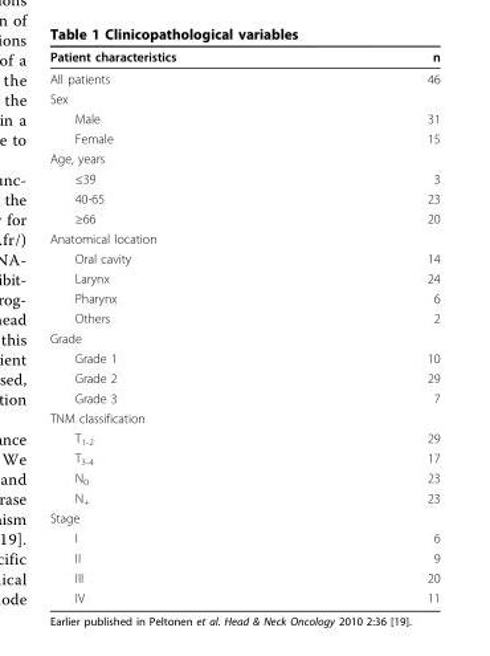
<table><thead><tr><td>Patient characteristics</td><td>n</td></tr></thead><tbody><tr><td>All patients</td><td>46</td></tr><tr><td colspan="2">Sex</td></tr><tr><td>Male</td><td>31</td></tr><tr><td>Female</td><td>15</td></tr><tr><td colspan="2">Age, years</td></tr><tr><td>≤39</td><td>3</td></tr><tr><td>40-65</td><td>23</td></tr><tr><td>≥66</td><td>20</td></tr><tr><td colspan="2">Anatomical location</td></tr><tr><td>Oral cavity</td><td>14</td></tr><tr><td>Larynx</td><td>24</td></tr><tr><td>Pharynx</td><td>6</td></tr><tr><td>Others</td><td>2</td></tr><tr><td colspan="2">Grade</td></tr><tr><td>Grade 1</td><td>10</td></tr><tr><td>Grade 2</td><td>29</td></tr><tr><td>Grade 3</td><td>7</td></tr><tr><td colspan="2">TNM classification</td></tr><tr><td>T<sub>1-2</sub></td><td>29</td></tr><tr><td>T<sub>3-4</sub></td><td>17</td></tr><tr><td>N<sub>0</sub></td><td>23</td></tr><tr><td>N<sub>+</sub></td><td>23</td></tr><tr><td colspan="2">Stage</td></tr><tr><td>I</td><td>6</td></tr><tr><td>II</td><td>9</td></tr><tr><td>III</td><td>20</td></tr><tr><td>IV</td><td>11</td></tr></tbody></table>